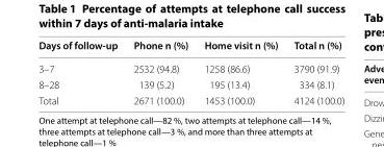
<table><thead><tr><td>Days of follow‑up</td><td>Phone n (%)</td><td>Home visit n (%)</td><td>Total n (%)</td></tr></thead><tbody><tr><td>3–7</td><td>2532 (94.8)</td><td>1258 (86.6)</td><td>3790 (91.9)</td></tr><tr><td>8–28</td><td>139 (5.2)</td><td>195 (13.4)</td><td>334 (8.1)</td></tr><tr><td>Total</td><td>2671 (100.0)</td><td>1453 (100.0)</td><td>4124 (100.0)</td></tr></tbody></table>